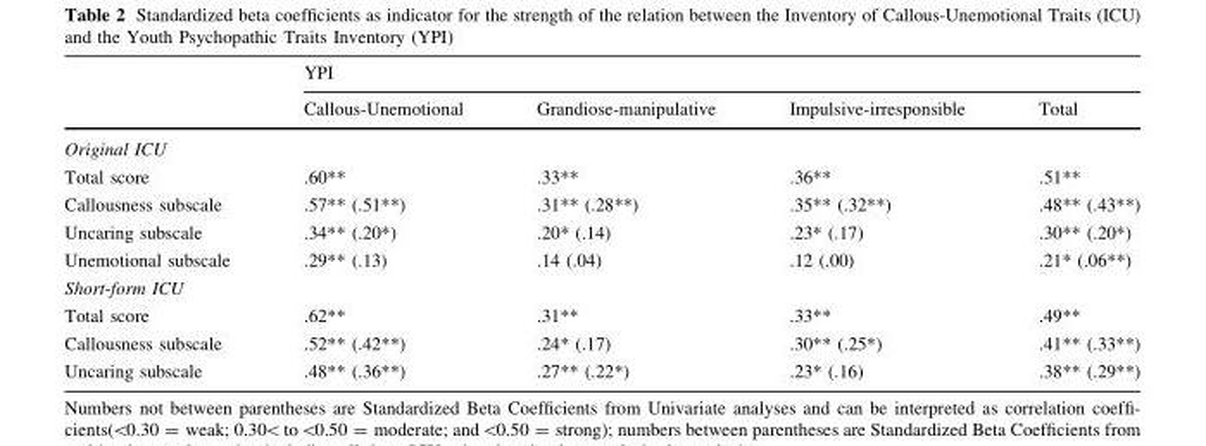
<table><thead><tr><td rowspan="2"></td><td colspan="4">YPI</td></tr><tr><td>Callous-Unemotional</td><td>Grandiose-manipulative</td><td>Impulsive-irresponsible</td><td>Total</td></tr></thead><tbody><tr><td colspan="5">Original ICU</td></tr><tr><td>Total score</td><td>.60**</td><td>.33**</td><td>.36**</td><td>.51**</td></tr><tr><td>Callousness subscale</td><td>.57** (.51**)</td><td>.31** (.28**)</td><td>.35** (.32**)</td><td>.48** (.43**)</td></tr><tr><td>Uncaring subscale</td><td>.34** (.20*)</td><td>.20* (.14)</td><td>.23* (.17)</td><td>.30** (.20*)</td></tr><tr><td>Unemotional subscale</td><td>.29** (.13)</td><td>.14 (.04)</td><td>.12 (.00)</td><td>.21* (.06**)</td></tr><tr><td colspan="5">Short-form ICU</td></tr><tr><td>Total score</td><td>.62**</td><td>.31**</td><td>.33**</td><td>.49**</td></tr><tr><td>Callousness subscale</td><td>.52** (.42**)</td><td>.24* (.17)</td><td>.30** (.25*)</td><td>.41** (.33**)</td></tr><tr><td>Uncaring subscale</td><td>.48** (.36**)</td><td>.27** (.22*)</td><td>.23* (.16)</td><td>.38** (.29**)</td></tr></tbody></table>